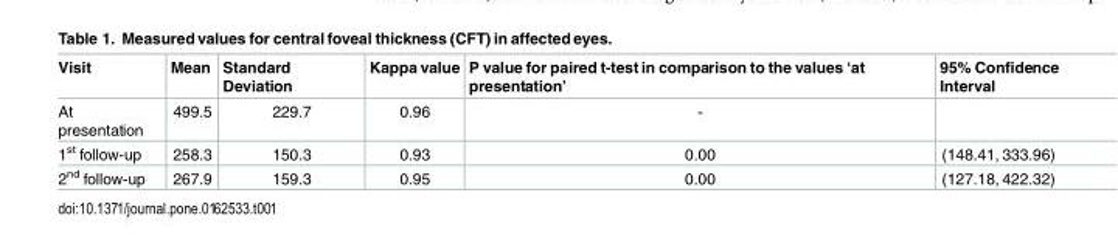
<table><thead><tr><td>Visit</td><td>Mean</td><td>Standard Deviation</td><td>Kappa value</td><td>P value for paired t-test in comparison to the values ‘at presentation’</td><td>95% Confidence Interval</td></tr></thead><tbody><tr><td>At presentation</td><td>499.5</td><td>229.7</td><td>0.96</td><td>-</td><td></td></tr><tr><td>1<sup>st</sup> follow-up</td><td>258.3</td><td>150.3</td><td>0.93</td><td>0.00</td><td>(148.41, 333.96)</td></tr><tr><td>2<sup>nd</sup> follow-up</td><td>267.9</td><td>159.3</td><td>0.95</td><td>0.00</td><td>(127.18, 422.32)</td></tr></tbody></table>